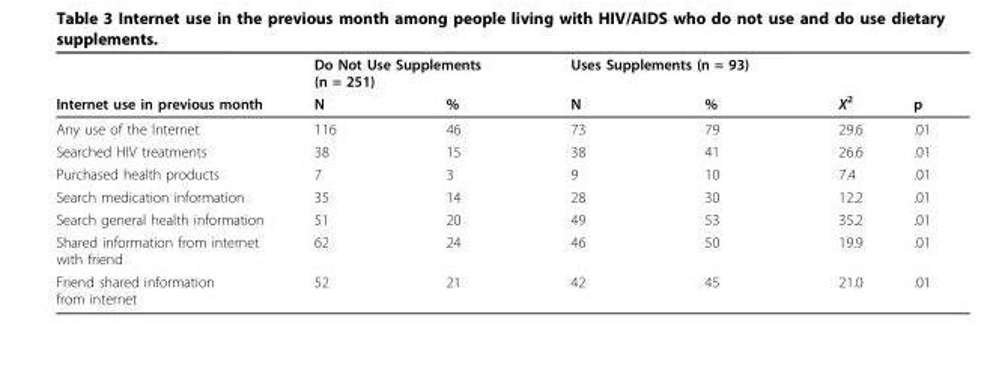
<table><thead><tr><td rowspan="2">Internet use in previous month</td><td colspan="2">Do Not Use Supplements (n = 251)</td><td colspan="2">Uses Supplements (n = 93)</td><td rowspan="2">X<sup>2</sup></td><td rowspan="2">p</td></tr><tr><td>N</td><td>%</td><td>N</td><td>%</td></tr></thead><tbody><tr><td>Any use of the Internet</td><td>116</td><td>46</td><td>73</td><td>79</td><td>29.6</td><td>.01</td></tr><tr><td>Searched HIV treatments</td><td>38</td><td>15</td><td>38</td><td>41</td><td>26.6</td><td>.01</td></tr><tr><td>Purchased health products</td><td>7</td><td>3</td><td>9</td><td>10</td><td>7.4</td><td>.01</td></tr><tr><td>Search medication information</td><td>35</td><td>14</td><td>28</td><td>30</td><td>12.2</td><td>.01</td></tr><tr><td>Search general health information</td><td>51</td><td>20</td><td>49</td><td>53</td><td>35.2</td><td>.01</td></tr><tr><td>Shared information from internet with friend</td><td>62</td><td>24</td><td>46</td><td>50</td><td>19.9</td><td>.01</td></tr><tr><td>Friend shared information from internet</td><td>52</td><td>21</td><td>42</td><td>45</td><td>21.0</td><td>.01</td></tr></tbody></table>